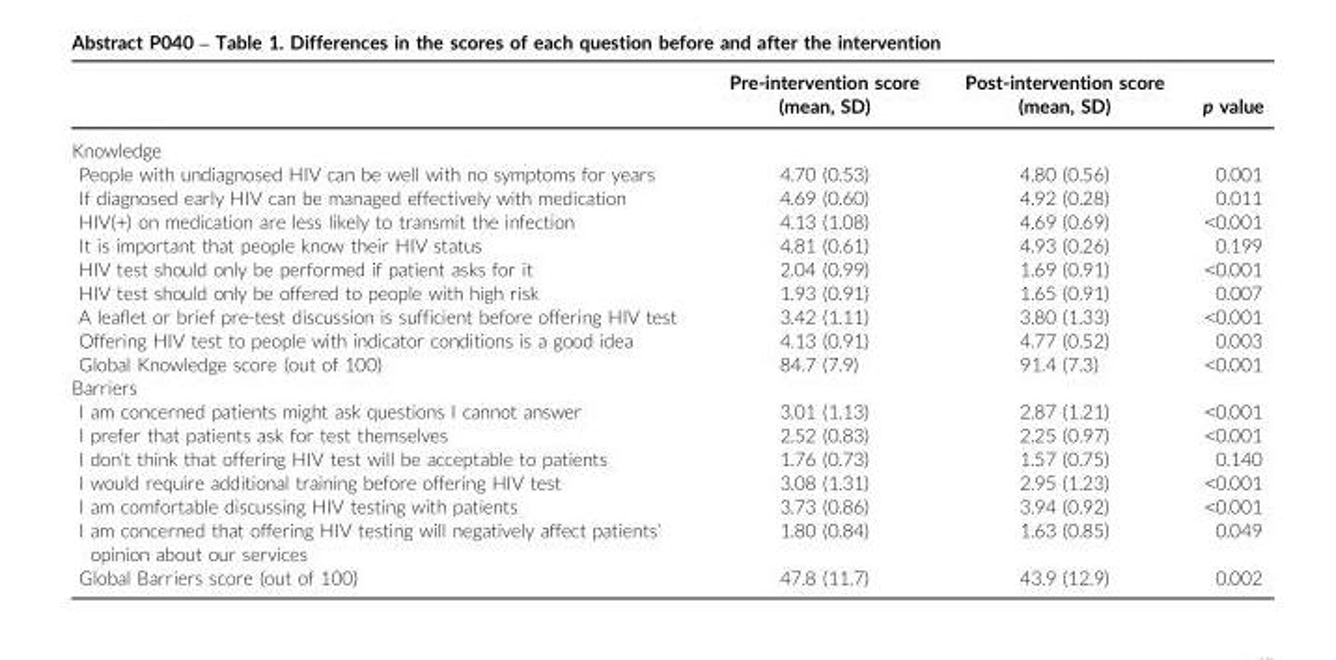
<table><thead><tr><td></td><td>Pre-intervention score (mean, SD)</td><td>Post-intervention score (mean, SD)</td><td>p value</td></tr></thead><tbody><tr><td colspan="4">Knowledge</td></tr><tr><td>People with undiagnosed HIV can be well with no symptoms for years</td><td>4.70 (0.53)</td><td>4.80 (0.56)</td><td>0.001</td></tr><tr><td>If diagnosed early HIV can be managed effectively with medication</td><td>4.69 (0.60)</td><td>4.92 (0.28)</td><td>0.011</td></tr><tr><td>HIV(+) on medication are less likely to transmit the infection</td><td>4.13 (1.08)</td><td>4.69 (0.69)</td><td>&lt;0.001</td></tr><tr><td>It is important that people know their HIV status</td><td>4.81 (0.61)</td><td>4.93 (0.26)</td><td>0.199</td></tr><tr><td>HIV test should only be performed if patient asks for it</td><td>2.04 (0.99)</td><td>1.69 (0.91)</td><td>&lt;0.001</td></tr><tr><td>HIV test should only be offered to people with high risk</td><td>1.93 (0.91)</td><td>1.65 (0.91)</td><td>0.007</td></tr><tr><td>A leaflet or brief pre-test discussion is sufficient before offering HIV test</td><td>3.42 (1.11)</td><td>3.80 (1.33)</td><td>&lt;0.001</td></tr><tr><td>Offering HIV test to people with indicator conditions is a good idea</td><td>4.13 (0.91)</td><td>4.77 (0.52)</td><td>0.003</td></tr><tr><td>Global Knowledge score (out of 100)</td><td>84.7 (7.9)</td><td>91.4 (7.3)</td><td>&lt;0.001</td></tr><tr><td colspan="4">Barriers</td></tr><tr><td>I am concerned patients might ask questions I cannot answer</td><td>3.01 (1.13)</td><td>2.87 (1.21)</td><td>&lt;0.001</td></tr><tr><td>I prefer that patients ask for test themselves</td><td>2.52 (0.83)</td><td>2.25 (0.97)</td><td>&lt;0.001</td></tr><tr><td>I don’t think that offering HIV test will be acceptable to patients</td><td>1.76 (0.73)</td><td>1.57 (0.75)</td><td>0.140</td></tr><tr><td>I would require additional training before offering HIV test</td><td>3.08 (1.31)</td><td>2.95 (1.23)</td><td>&lt;0.001</td></tr><tr><td>I am comfortable discussing HIV testing with patients</td><td>3.73 (0.86)</td><td>3.94 (0.92)</td><td>&lt;0.001</td></tr><tr><td>I am concerned that offering HIV testing will negatively affect patients’ opinion about our services</td><td>1.80 (0.84)</td><td>1.63 (0.85)</td><td>0.049</td></tr><tr><td>Global Barriers score (out of 100)</td><td>47.8 (11.7)</td><td>43.9 (12.9)</td><td>0.002</td></tr></tbody></table>